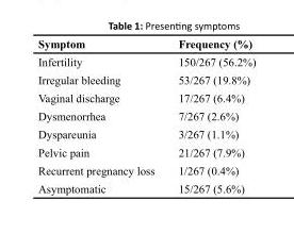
<table><thead><tr><td>Symptom</td><td>Frequency (%)</td></tr></thead><tbody><tr><td>Infertility</td><td>150/267 (56.2%)</td></tr><tr><td>Irregular bleeding</td><td>53/267 (19.8%)</td></tr><tr><td>Vaginal discharge</td><td>17/267 (6.4%)</td></tr><tr><td>Dysmenorrhea</td><td>7/267 (2.6%)</td></tr><tr><td>Dyspareunia</td><td>3/267 (1.1%)</td></tr><tr><td>Pelvic pain</td><td>21/267 (7.9%)</td></tr><tr><td>Recurrent pregnancy loss</td><td>1/267 (0.4%)</td></tr><tr><td>Asymptomatic</td><td>15/267 (5.6%)</td></tr></tbody></table>